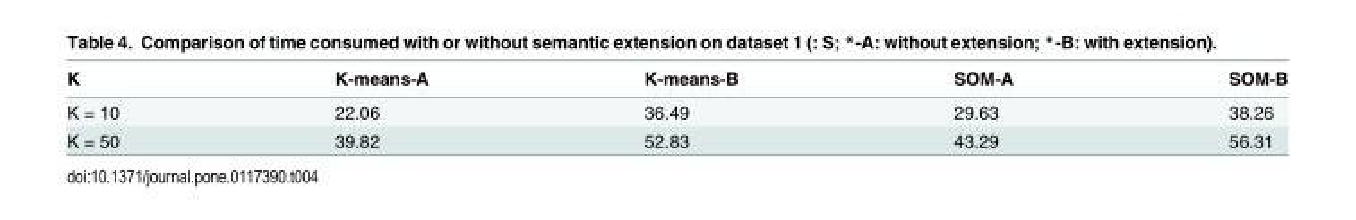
<table><thead><tr><td>K</td><td>K-means-A</td><td>K-means-B</td><td>SOM-A</td><td>SOM-B</td></tr></thead><tbody><tr><td>K = 10</td><td>22.06</td><td>36.49</td><td>29.63</td><td>38.26</td></tr><tr><td>K = 50</td><td>39.82</td><td>52.83</td><td>43.29</td><td>56.31</td></tr></tbody></table>